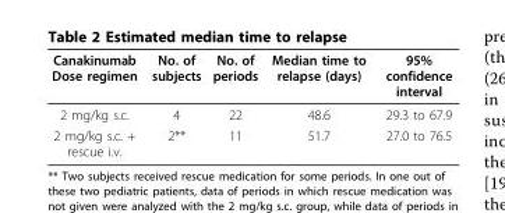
<table><thead><tr><td>Canakinumab Dose regimen</td><td>No. of subjects</td><td>No. of periods</td><td>Median time to relapse (days)</td><td>95% confidence interval</td></tr></thead><tbody><tr><td>2 mg/kg s.c.</td><td>4</td><td>22</td><td>48.6</td><td>29.3 to 67.9</td></tr><tr><td>2 mg/kg s.c. + rescue i.v.</td><td>2**</td><td>11</td><td>51.7</td><td>27.0 to 76.5</td></tr></tbody></table>